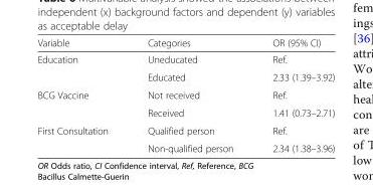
<table><thead><tr><td>Variable</td><td>Categories</td><td>OR (95% CI)</td></tr></thead><tbody><tr><td rowspan="2">Education</td><td>Uneducated</td><td>Ref.</td></tr><tr><td>Educated</td><td>2.33 (1.39–3.92)</td></tr><tr><td rowspan="2">BCG Vaccine</td><td>Not received</td><td>Ref.</td></tr><tr><td>Received</td><td>1.41 (0.73–2.71)</td></tr><tr><td rowspan="2">First Consultation</td><td>Qualified person</td><td>Ref.</td></tr><tr><td>Non-qualified person</td><td>2.34 (1.38–3.96)</td></tr></tbody></table>